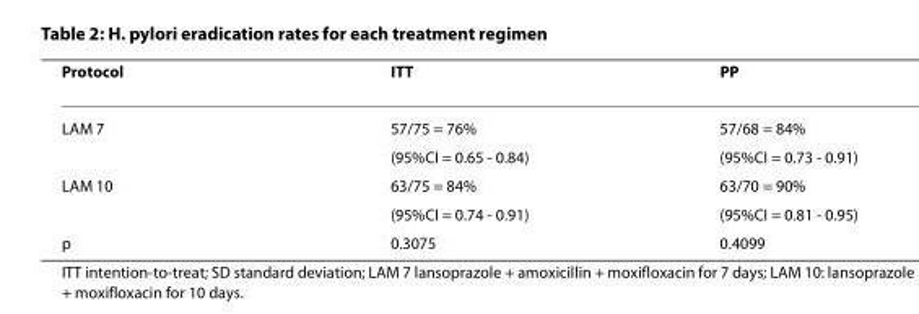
<table><thead><tr><td>Protocol</td><td>ITT</td><td>PP</td></tr></thead><tbody><tr><td rowspan="2">LAM 7</td><td>57/75 = 76%</td><td>57/68 = 84%</td></tr><tr><td>(95%CI = 0.65 - 0.84)</td><td>(95%CI = 0.73 - 0.91)</td></tr><tr><td rowspan="2">LAM 10</td><td>63/75 = 84%</td><td>63/70 = 90%</td></tr><tr><td>(95%CI = 0.74 - 0.91)</td><td>(95%CI = 0.81 - 0.95)</td></tr><tr><td>p</td><td>0.3075</td><td>0.4099</td></tr></tbody></table>